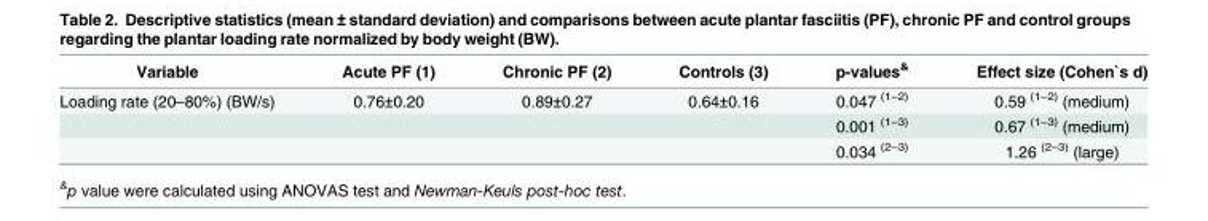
<table><thead><tr><td>Variable</td><td>Acute PF (1)</td><td>Chronic PF (2)</td><td>Controls (3)</td><td>p-values<sup>&amp;</sup></td><td>Effect size (Cohen`s d)</td></tr></thead><tbody><tr><td rowspan="3">Loading rate (20–80%) (BW/s)</td><td>0.76±0.20</td><td>0.89±0.27</td><td>0.64±0.16</td><td>0.047 <sup>(1–2)</sup></td><td>0.59 <sup>(1–2)</sup> (medium)</td></tr><tr><td></td><td></td><td></td><td>0.001 <sup>(1–3)</sup></td><td>0.67 <sup>(1–3)</sup> (medium)</td></tr><tr><td></td><td></td><td></td><td>0.034 <sup>(2–3)</sup></td><td>1.26 <sup>(2–3)</sup> (large)</td></tr></tbody></table>